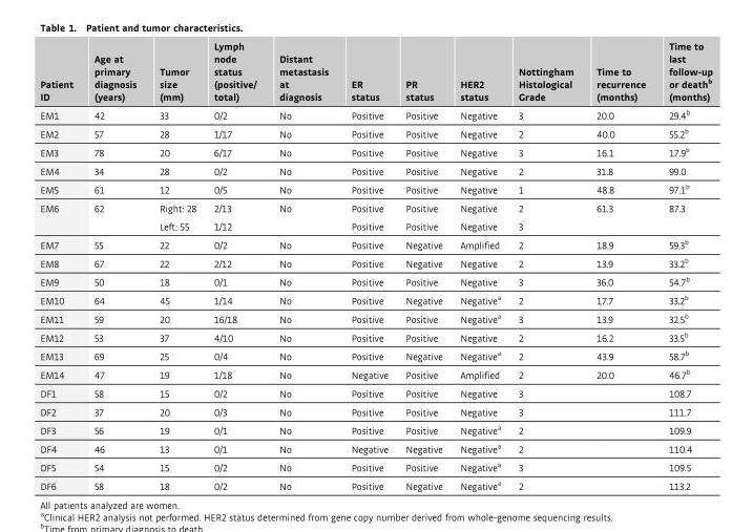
<table><thead><tr><td>Patient ID</td><td>Age at primary diagnosis (years)</td><td>Tumor size (mm)</td><td>Lymph node status (positive/ total)</td><td>Distant metastasis at diagnosis</td><td>ER status</td><td>PR status</td><td>HER2 status</td><td>Nottingham Histological Grade</td><td>Time to recurrence (months)</td><td>Time to last follow-up or death<sup>b</sup> (months)</td></tr></thead><tbody><tr><td>EM1</td><td>42</td><td>33</td><td>0/2</td><td>No</td><td>Positive</td><td>Positive</td><td>Negative</td><td>3</td><td>20.0</td><td>29.4<sup>b</sup></td></tr><tr><td>EM2</td><td>57</td><td>28</td><td>1/17</td><td>No</td><td>Positive</td><td>Positive</td><td>Negative</td><td>2</td><td>40.0</td><td>55.2<sup>b</sup></td></tr><tr><td>EM3</td><td>78</td><td>20</td><td>6/17</td><td>No</td><td>Positive</td><td>Positive</td><td>Negative</td><td>3</td><td>16.1</td><td>17.9<sup>b</sup></td></tr><tr><td>EM4</td><td>34</td><td>28</td><td>0/2</td><td>No</td><td>Positive</td><td>Positive</td><td>Negative</td><td>2</td><td>31.8</td><td>99.0</td></tr><tr><td>EM5</td><td>61</td><td>12</td><td>0/5</td><td>No</td><td>Positive</td><td>Positive</td><td>Negative</td><td>1</td><td>48.8</td><td>97.1<sup>b</sup></td></tr><tr><td rowspan="2">EM6</td><td rowspan="2">62</td><td>Right: 28</td><td>2/13</td><td rowspan="2">No</td><td>Positive</td><td>Positive</td><td>Negative</td><td>2</td><td rowspan="2">61.3</td><td rowspan="2">87.3</td></tr><tr><td>Left: 55</td><td>1/12</td><td>Positive</td><td>Positive</td><td>Negative</td><td>3</td></tr><tr><td>EM7</td><td>55</td><td>22</td><td>0/2</td><td>No</td><td>Positive</td><td>Negative</td><td>Amplified</td><td>2</td><td>18.9</td><td>59.3<sup>b</sup></td></tr><tr><td>EM8</td><td>67</td><td>22</td><td>2/12</td><td>No</td><td>Positive</td><td>Negative</td><td>Negative</td><td>2</td><td>13.9</td><td>33.2<sup>b</sup></td></tr><tr><td>EM9</td><td>50</td><td>18</td><td>0/1</td><td>No</td><td>Positive</td><td>Positive</td><td>Negative</td><td>3</td><td>36.0</td><td>54.7<sup>b</sup></td></tr><tr><td>EM10</td><td>64</td><td>45</td><td>1/14</td><td>No</td><td>Positive</td><td>Negative</td><td>Negative<sup>a</sup></td><td>2</td><td>17.7</td><td>33.2<sup>b</sup></td></tr><tr><td>EM11</td><td>59</td><td>20</td><td>16/18</td><td>No</td><td>Positive</td><td>Positive</td><td>Negative<sup>a</sup></td><td>3</td><td>13.9</td><td>32.5<sup>b</sup></td></tr><tr><td>EM12</td><td>53</td><td>37</td><td>4/10</td><td>No</td><td>Positive</td><td>Positive</td><td>Negative</td><td>2</td><td>16.2</td><td>33.5<sup>b</sup></td></tr><tr><td>EM13</td><td>69</td><td>25</td><td>0/4</td><td>No</td><td>Positive</td><td>Negative</td><td>Negative<sup>a</sup></td><td>2</td><td>43.9</td><td>58.7<sup>b</sup></td></tr><tr><td>EM14</td><td>47</td><td>19</td><td>1/18</td><td>No</td><td>Negative</td><td>Positive</td><td>Amplified</td><td>2</td><td>20.0</td><td>46.7<sup>b</sup></td></tr><tr><td>DF1</td><td>58</td><td>15</td><td>0/2</td><td>No</td><td>Positive</td><td>Positive</td><td>Negative</td><td>3</td><td></td><td>108.7</td></tr><tr><td>DF2</td><td>37</td><td>20</td><td>0/3</td><td>No</td><td>Positive</td><td>Positive</td><td>Negative</td><td>3</td><td></td><td>111.7</td></tr><tr><td>DF3</td><td>56</td><td>19</td><td>0/1</td><td>No</td><td>Positive</td><td>Positive</td><td>Negative<sup>a</sup></td><td>2</td><td></td><td>109.9</td></tr><tr><td>DF4</td><td>46</td><td>13</td><td>0/1</td><td>No</td><td>Negative</td><td>Negative</td><td>Negative<sup>a</sup></td><td>2</td><td></td><td>110.4</td></tr><tr><td>DF5</td><td>54</td><td>15</td><td>0/2</td><td>No</td><td>Positive</td><td>Positive</td><td>Negative<sup>a</sup></td><td>3</td><td></td><td>109.5</td></tr><tr><td>DF6</td><td>58</td><td>18</td><td>0/2</td><td>No</td><td>Positive</td><td>Negative</td><td>Negative<sup>a</sup></td><td>2</td><td></td><td>113.2</td></tr></tbody></table>